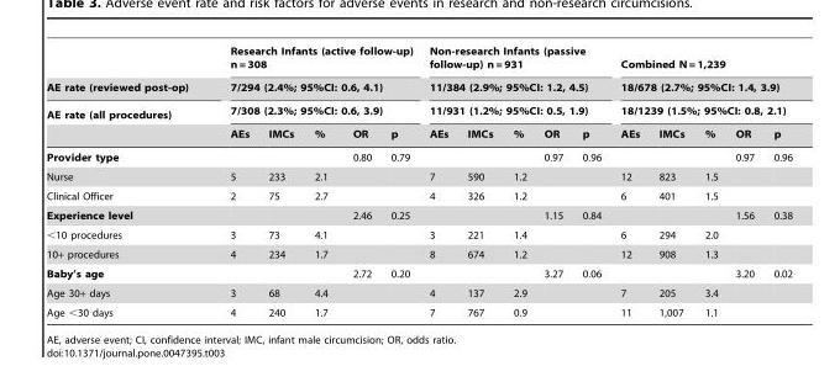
<table><thead><tr><td rowspan="4">AE rate (reviewed post-op) AE rate (all procedures)</td><td rowspan="3" colspan="5">Research Infants (active follow-up) n = 308 7/294 (2.4%; 95%CI: 0.6, 4.1) 7/308 (2.3%; 95%CI: 0.6, 3.9)</td><td rowspan="3" colspan="5">Non-research Infants (passive follow-up) n = 931 11/384 (2.9%; 95%CI: 1.2, 4.5) 11/931 (1.2%; 95%CI: 0.5, 1.9)</td><td rowspan="3" colspan="5">Combined N = 1,239 18/678 (2.7%; 95%CI: 1.4, 3.9) 18/1239 (1.5%; 95%CI: 0.8, 2.1)</td></tr><tr></tr><tr></tr><tr><td>AEs</td><td>IMCs</td><td>%</td><td>OR</td><td>p</td><td>AEs</td><td>IMCs</td><td>%</td><td>OR</td><td>p</td><td>AEs</td><td>IMCs</td><td>%</td><td>OR</td><td>p</td></tr></thead><tbody><tr><td>Provider type</td><td></td><td></td><td></td><td>0.80</td><td>0.79</td><td></td><td></td><td></td><td>0.97</td><td>0.96</td><td></td><td></td><td></td><td>0.97</td><td>0.96</td></tr><tr><td>Nurse</td><td>5</td><td>233</td><td>2.1</td><td></td><td></td><td>7</td><td>590</td><td>1.2</td><td></td><td></td><td>12</td><td>823</td><td>1.5</td><td></td><td></td></tr><tr><td>Clinical Officer</td><td>2</td><td>75</td><td>2.7</td><td></td><td></td><td>4</td><td>326</td><td>1.2</td><td></td><td></td><td>6</td><td>401</td><td>1.5</td><td></td><td></td></tr><tr><td>Experience level</td><td></td><td></td><td></td><td>2.46</td><td>0.25</td><td></td><td></td><td></td><td>1.15</td><td>0.84</td><td></td><td></td><td></td><td>1.56</td><td>0.38</td></tr><tr><td>&lt;10 procedures</td><td>3</td><td>73</td><td>4.1</td><td></td><td></td><td>3</td><td>221</td><td>1.4</td><td></td><td></td><td>6</td><td>294</td><td>2.0</td><td></td><td></td></tr><tr><td>10+ procedures</td><td>4</td><td>234</td><td>1.7</td><td></td><td></td><td>8</td><td>674</td><td>1.2</td><td></td><td></td><td>12</td><td>908</td><td>1.3</td><td></td><td></td></tr><tr><td>Baby’s age</td><td></td><td></td><td></td><td>2.72</td><td>0.20</td><td></td><td></td><td></td><td>3.27</td><td>0.06</td><td></td><td></td><td></td><td>3.20</td><td>0.02</td></tr><tr><td>Age 30+ days</td><td>3</td><td>68</td><td>4.4</td><td></td><td></td><td>4</td><td>137</td><td>2.9</td><td></td><td></td><td>7</td><td>205</td><td>3.4</td><td></td><td></td></tr><tr><td>Age &lt;30 days</td><td>4</td><td>240</td><td>1.7</td><td></td><td></td><td>7</td><td>767</td><td>0.9</td><td></td><td></td><td>11</td><td>1,007</td><td>1.1</td><td></td><td></td></tr></tbody></table>